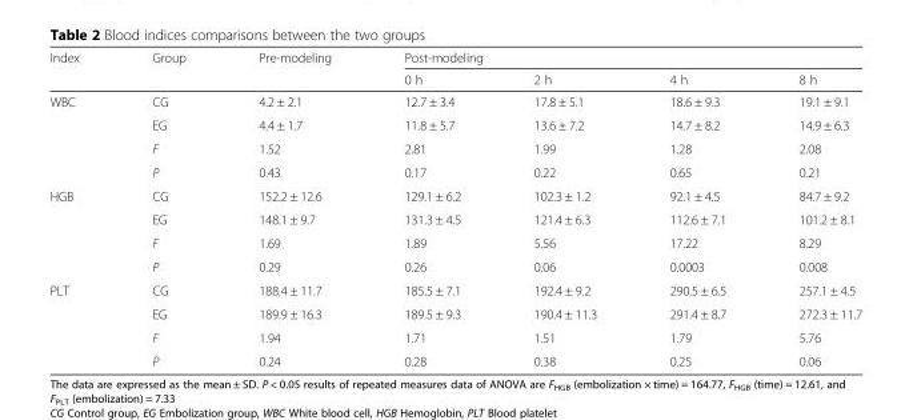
<table><thead><tr><td rowspan="2">Index</td><td rowspan="2">Group</td><td rowspan="2">Pre-modeling</td><td colspan="4">Post-modeling</td></tr><tr><td>0 h</td><td>2 h</td><td>4 h</td><td>8 h</td></tr></thead><tbody><tr><td rowspan="4">WBC</td><td>CG</td><td>4.2 ± 2.1</td><td>12.7 ± 3.4</td><td>17.8 ± 5.1</td><td>18.6 ± 9.3</td><td>19.1 ± 9.1</td></tr><tr><td>EG</td><td>4.4 ± 1.7</td><td>11.8 ± 5.7</td><td>13.6 ± 7.2</td><td>14.7 ± 8.2</td><td>14.9 ± 6.3</td></tr><tr><td>F</td><td>1.52</td><td>2.81</td><td>1.99</td><td>1.28</td><td>2.08</td></tr><tr><td>P</td><td>0.43</td><td>0.17</td><td>0.22</td><td>0.65</td><td>0.21</td></tr><tr><td rowspan="4">HGB</td><td>CG</td><td>152.2 ± 12.6</td><td>129.1 ± 6.2</td><td>102.3 ± 1.2</td><td>92.1 ± 4.5</td><td>84.7 ± 9.2</td></tr><tr><td>EG</td><td>148.1 ± 9.7</td><td>131.3 ± 4.5</td><td>121.4 ± 6.3</td><td>112.6 ± 7.1</td><td>101.2 ± 8.1</td></tr><tr><td>F</td><td>1.69</td><td>1.89</td><td>5.56</td><td>17.22</td><td>8.29</td></tr><tr><td>P</td><td>0.29</td><td>0.26</td><td>0.06</td><td>0.0003</td><td>0.008</td></tr><tr><td rowspan="4">PLT</td><td>CG</td><td>188.4 ± 11.7</td><td>185.5 ± 7.1</td><td>192.4 ± 9.2</td><td>290.5 ± 6.5</td><td>257.1 ± 4.5</td></tr><tr><td>EG</td><td>189.9 ± 16.3</td><td>189.5 ± 9.3</td><td>190.4 ± 11.3</td><td>291.4 ± 8.7</td><td>272.3 ± 11.7</td></tr><tr><td>F</td><td>1.94</td><td>1.71</td><td>1.51</td><td>1.79</td><td>5.76</td></tr><tr><td>P</td><td>0.24</td><td>0.28</td><td>0.38</td><td>0.25</td><td>0.06</td></tr></tbody></table>